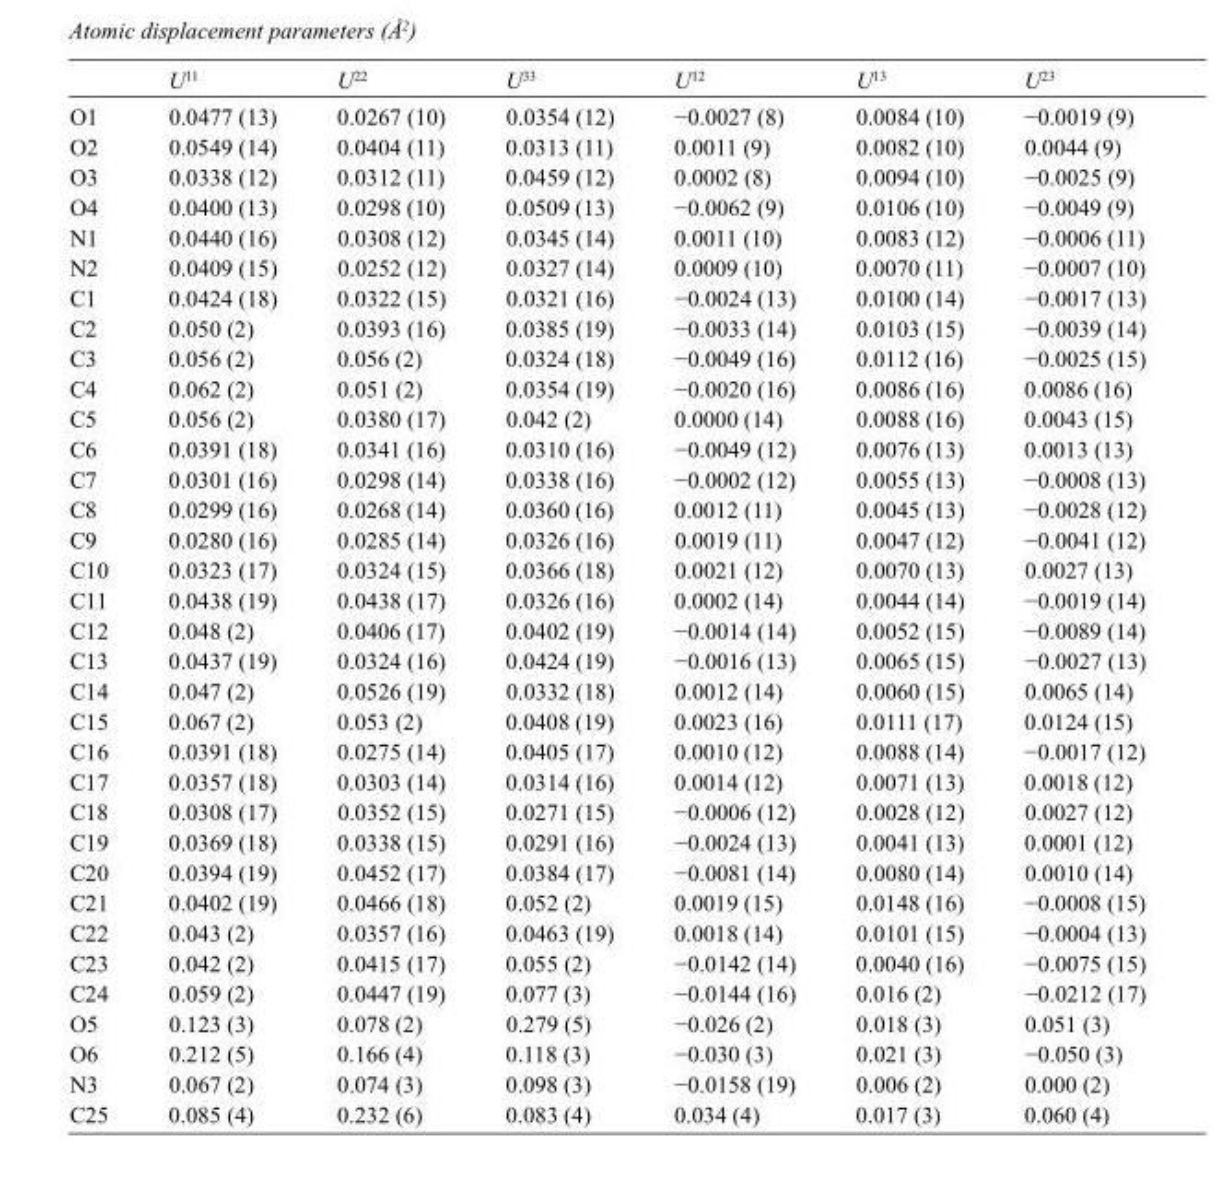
<table><thead><tr><td></td><td>U<sup>11</sup></td><td>U<sup>22</sup></td><td>U<sup>33</sup></td><td>U<sup>12</sup></td><td>U<sup>13</sup></td><td>U<sup>23</sup></td></tr></thead><tbody><tr><td>O1</td><td>0.0477 (13)</td><td>0.0267 (10)</td><td>0.0354 (12)</td><td>−0.0027 (8)</td><td>0.0084 (10)</td><td>−0.0019 (9)</td></tr><tr><td>O2</td><td>0.0549 (14)</td><td>0.0404 (11)</td><td>0.0313 (11)</td><td>0.0011 (9)</td><td>0.0082 (10)</td><td>0.0044 (9)</td></tr><tr><td>O3</td><td>0.0338 (12)</td><td>0.0312 (11)</td><td>0.0459 (12)</td><td>0.0002 (8)</td><td>0.0094 (10)</td><td>−0.0025 (9)</td></tr><tr><td>O4</td><td>0.0400 (13)</td><td>0.0298 (10)</td><td>0.0509 (13)</td><td>−0.0062 (9)</td><td>0.0106 (10)</td><td>−0.0049 (9)</td></tr><tr><td>N1</td><td>0.0440 (16)</td><td>0.0308 (12)</td><td>0.0345 (14)</td><td>0.0011 (10)</td><td>0.0083 (12)</td><td>−0.0006 (11)</td></tr><tr><td>N2</td><td>0.0409 (15)</td><td>0.0252 (12)</td><td>0.0327 (14)</td><td>0.0009 (10)</td><td>0.0070 (11)</td><td>−0.0007 (10)</td></tr><tr><td>C1</td><td>0.0424 (18)</td><td>0.0322 (15)</td><td>0.0321 (16)</td><td>−0.0024 (13)</td><td>0.0100 (14)</td><td>−0.0017 (13)</td></tr><tr><td>C2</td><td>0.050 (2)</td><td>0.0393 (16)</td><td>0.0385 (19)</td><td>−0.0033 (14)</td><td>0.0103 (15)</td><td>−0.0039 (14)</td></tr><tr><td>C3</td><td>0.056 (2)</td><td>0.056 (2)</td><td>0.0324 (18)</td><td>−0.0049 (16)</td><td>0.0112 (16)</td><td>−0.0025 (15)</td></tr><tr><td>C4</td><td>0.062 (2)</td><td>0.051 (2)</td><td>0.0354 (19)</td><td>−0.0020 (16)</td><td>0.0086 (16)</td><td>0.0086 (16)</td></tr><tr><td>C5</td><td>0.056 (2)</td><td>0.0380 (17)</td><td>0.042 (2)</td><td>0.0000 (14)</td><td>0.0088 (16)</td><td>0.0043 (15)</td></tr><tr><td>C6</td><td>0.0391 (18)</td><td>0.0341 (16)</td><td>0.0310 (16)</td><td>−0.0049 (12)</td><td>0.0076 (13)</td><td>0.0013 (13)</td></tr><tr><td>C7</td><td>0.0301 (16)</td><td>0.0298 (14)</td><td>0.0338 (16)</td><td>−0.0002 (12)</td><td>0.0055 (13)</td><td>−0.0008 (13)</td></tr><tr><td>C8</td><td>0.0299 (16)</td><td>0.0268 (14)</td><td>0.0360 (16)</td><td>0.0012 (11)</td><td>0.0045 (13)</td><td>−0.0028 (12)</td></tr><tr><td>C9</td><td>0.0280 (16)</td><td>0.0285 (14)</td><td>0.0326 (16)</td><td>0.0019 (11)</td><td>0.0047 (12)</td><td>−0.0041 (12)</td></tr><tr><td>C10</td><td>0.0323 (17)</td><td>0.0324 (15)</td><td>0.0366 (18)</td><td>0.0021 (12)</td><td>0.0070 (13)</td><td>0.0027 (13)</td></tr><tr><td>C11</td><td>0.0438 (19)</td><td>0.0438 (17)</td><td>0.0326 (16)</td><td>0.0002 (14)</td><td>0.0044 (14)</td><td>−0.0019 (14)</td></tr><tr><td>C12</td><td>0.048 (2)</td><td>0.0406 (17)</td><td>0.0402 (19)</td><td>−0.0014 (14)</td><td>0.0052 (15)</td><td>−0.0089 (14)</td></tr><tr><td>C13</td><td>0.0437 (19)</td><td>0.0324 (16)</td><td>0.0424 (19)</td><td>−0.0016 (13)</td><td>0.0065 (15)</td><td>−0.0027 (13)</td></tr><tr><td>C14</td><td>0.047 (2)</td><td>0.0526 (19)</td><td>0.0332 (18)</td><td>0.0012 (14)</td><td>0.0060 (15)</td><td>0.0065 (14)</td></tr><tr><td>C15</td><td>0.067 (2)</td><td>0.053 (2)</td><td>0.0408 (19)</td><td>0.0023 (16)</td><td>0.0111 (17)</td><td>0.0124 (15)</td></tr><tr><td>C16</td><td>0.0391 (18)</td><td>0.0275 (14)</td><td>0.0405 (17)</td><td>0.0010 (12)</td><td>0.0088 (14)</td><td>−0.0017 (12)</td></tr><tr><td>C17</td><td>0.0357 (18)</td><td>0.0303 (14)</td><td>0.0314 (16)</td><td>0.0014 (12)</td><td>0.0071 (13)</td><td>0.0018 (12)</td></tr><tr><td>C18</td><td>0.0308 (17)</td><td>0.0352 (15)</td><td>0.0271 (15)</td><td>−0.0006 (12)</td><td>0.0028 (12)</td><td>0.0027 (12)</td></tr><tr><td>C19</td><td>0.0369 (18)</td><td>0.0338 (15)</td><td>0.0291 (16)</td><td>−0.0024 (13)</td><td>0.0041 (13)</td><td>0.0001 (12)</td></tr><tr><td>C20</td><td>0.0394 (19)</td><td>0.0452 (17)</td><td>0.0384 (17)</td><td>−0.0081 (14)</td><td>0.0080 (14)</td><td>0.0010 (14)</td></tr><tr><td>C21</td><td>0.0402 (19)</td><td>0.0466 (18)</td><td>0.052 (2)</td><td>0.0019 (15)</td><td>0.0148 (16)</td><td>−0.0008 (15)</td></tr><tr><td>C22</td><td>0.043 (2)</td><td>0.0357 (16)</td><td>0.0463 (19)</td><td>0.0018 (14)</td><td>0.0101 (15)</td><td>−0.0004 (13)</td></tr><tr><td>C23</td><td>0.042 (2)</td><td>0.0415 (17)</td><td>0.055 (2)</td><td>−0.0142 (14)</td><td>0.0040 (16)</td><td>−0.0075 (15)</td></tr><tr><td>C24</td><td>0.059 (2)</td><td>0.0447 (19)</td><td>0.077 (3)</td><td>−0.0144 (16)</td><td>0.016 (2)</td><td>−0.0212 (17)</td></tr><tr><td>O5</td><td>0.123 (3)</td><td>0.078 (2)</td><td>0.279 (5)</td><td>−0.026 (2)</td><td>0.018 (3)</td><td>0.051 (3)</td></tr><tr><td>O6</td><td>0.212 (5)</td><td>0.166 (4)</td><td>0.118 (3)</td><td>−0.030 (3)</td><td>0.021 (3)</td><td>−0.050 (3)</td></tr><tr><td>N3</td><td>0.067 (2)</td><td>0.074 (3)</td><td>0.098 (3)</td><td>−0.0158 (19)</td><td>0.006 (2)</td><td>0.000 (2)</td></tr><tr><td>C25</td><td>0.085 (4)</td><td>0.232 (6)</td><td>0.083 (4)</td><td>0.034 (4)</td><td>0.017 (3)</td><td>0.060 (4)</td></tr></tbody></table>